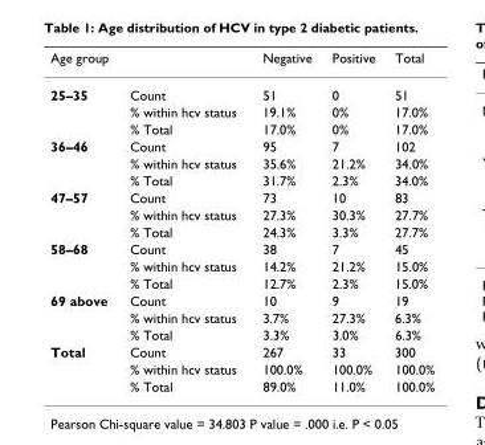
<table><thead><tr><td>Age group</td><td></td><td>Negative</td><td>Positive</td><td>Total</td></tr></thead><tbody><tr><td rowspan="3">25–35</td><td>Count</td><td>51</td><td>0</td><td>51</td></tr><tr><td>% within hcv status</td><td>19.1%</td><td>0%</td><td>17.0%</td></tr><tr><td>% Total</td><td>17.0%</td><td>0%</td><td>17.0%</td></tr><tr><td rowspan="3">36–46</td><td>Count</td><td>95</td><td>7</td><td>102</td></tr><tr><td>% within hcv status</td><td>35.6%</td><td>21.2%</td><td>34.0%</td></tr><tr><td>% Total</td><td>31.7%</td><td>2.3%</td><td>34.0%</td></tr><tr><td rowspan="3">47–57</td><td>Count</td><td>73</td><td>10</td><td>83</td></tr><tr><td>% within hcv status</td><td>27.3%</td><td>30.3%</td><td>27.7%</td></tr><tr><td>% Total</td><td>24.3%</td><td>3.3%</td><td>27.7%</td></tr><tr><td rowspan="3">58–68</td><td>Count</td><td>38</td><td>7</td><td>45</td></tr><tr><td>% within hcv status</td><td>14.2%</td><td>21.2%</td><td>15.0%</td></tr><tr><td>% Total</td><td>12.7%</td><td>2.3%</td><td>15.0%</td></tr><tr><td rowspan="3">69 above</td><td>Count</td><td>10</td><td>9</td><td>19</td></tr><tr><td>% within hcv status</td><td>3.7%</td><td>27.3%</td><td>6.3%</td></tr><tr><td>% Total</td><td>3.3%</td><td>3.0%</td><td>6.3%</td></tr><tr><td rowspan="3">Total</td><td>Count</td><td>267</td><td>33</td><td>300</td></tr><tr><td>% within hcv status</td><td>100.0%</td><td>100.0%</td><td>100.0%</td></tr><tr><td>% Total</td><td>89.0%</td><td>11.0%</td><td>100.0%</td></tr></tbody></table>